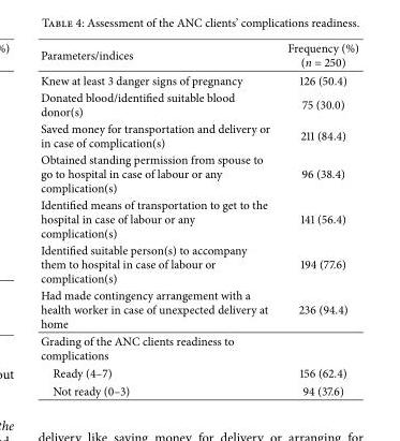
<table><thead><tr><td>Parameters/indices</td><td>Frequency (%) (n = 250)</td></tr></thead><tbody><tr><td>Knew at least 3 danger signs of pregnancy</td><td>126 (50.4)</td></tr><tr><td>Donated blood/identified suitable blood donor(s)</td><td>75 (30.0)</td></tr><tr><td>Saved money for transportation and delivery or in case of complication(s)</td><td>211 (84.4)</td></tr><tr><td>Obtained standing permission from spouse to go to hospital in case of labour or any complication(s)</td><td>96 (38.4)</td></tr><tr><td>Identified means of transportation to get to the hospital in case of labour or any complication(s)</td><td>141 (56.4)</td></tr><tr><td>Identified suitable person(s) to accompany them to hospital in case of labour or complication(s)</td><td>194 (77.6)</td></tr><tr><td>Had made contingency arrangement with a health worker in case of unexpected delivery at home</td><td>236 (94.4)</td></tr><tr><td colspan="2">Grading of the ANC clients readiness to complications</td></tr><tr><td>Ready (4–7)</td><td>156 (62.4)</td></tr><tr><td>Not ready (0–3)</td><td>94 (37.6)</td></tr></tbody></table>